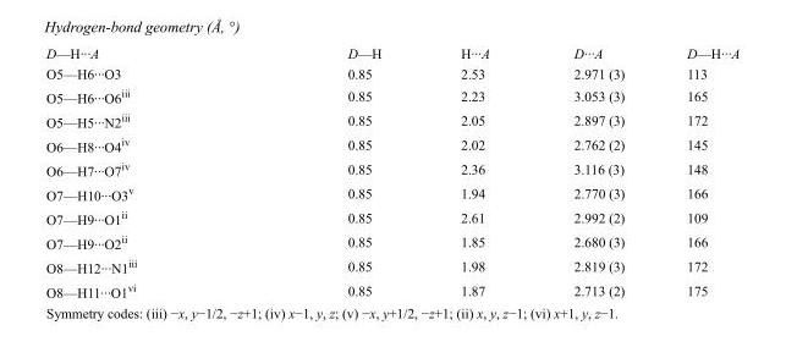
<table><tbody><tr><td>D—H···A</td><td>D—H</td><td>H···A</td><td>D···A</td><td>D—H···A</td></tr><tr><td>O5—H6···O3</td><td>0.85</td><td>2.53</td><td>2.971 (3)</td><td>113</td></tr><tr><td>O5—H6···O6<sup>iii</sup></td><td>0.85</td><td>2.23</td><td>3.053 (3)</td><td>165</td></tr><tr><td>O5—H5···N2<sup>iii</sup></td><td>0.85</td><td>2.05</td><td>2.897 (3)</td><td>172</td></tr><tr><td>O6—H8···O4<sup>iv</sup></td><td>0.85</td><td>2.02</td><td>2.762 (2)</td><td>145</td></tr><tr><td>O6—H7···O7<sup>iv</sup></td><td>0.85</td><td>2.36</td><td>3.116 (3)</td><td>148</td></tr><tr><td>O7—H10···O3<sup>v</sup></td><td>0.85</td><td>1.94</td><td>2.770 (3)</td><td>166</td></tr><tr><td>O7—H9···O1<sup>ii</sup></td><td>0.85</td><td>2.61</td><td>2.992 (2)</td><td>109</td></tr><tr><td>O7—H9···O2<sup>ii</sup></td><td>0.85</td><td>1.85</td><td>2.680 (3)</td><td>166</td></tr><tr><td>O8—H12···N1<sup>iii</sup></td><td>0.85</td><td>1.98</td><td>2.819 (3)</td><td>172</td></tr><tr><td>O8—H11···O1<sup>vi</sup></td><td>0.85</td><td>1.87</td><td>2.713 (2)</td><td>175</td></tr></tbody></table>